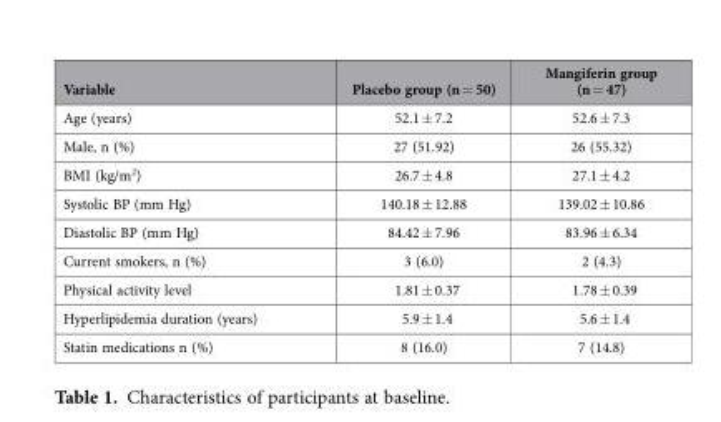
<table><thead><tr><td>Variable</td><td>Placebo group (n = 50)</td><td>Mangiferin group (n = 47)</td></tr></thead><tbody><tr><td>Age (years)</td><td>52.1 ± 7.2</td><td>52.6 ± 7.3</td></tr><tr><td>Male, n (%)</td><td>27 (51.92)</td><td>26 (55.32)</td></tr><tr><td>BMI (kg/m<sup>2</sup>)</td><td>26.7 ± 4.8</td><td>27.1 ± 4.2</td></tr><tr><td>Systolic BP (mm Hg)</td><td>140.18 ± 12.88</td><td>139.02 ± 10.86</td></tr><tr><td>Diastolic BP (mm Hg)</td><td>84.42 ± 7.96</td><td>83.96 ± 6.34</td></tr><tr><td>Current smokers, n (%)</td><td>3 (6.0)</td><td>2 (4.3)</td></tr><tr><td>Physical activity level</td><td>1.81 ± 0.37</td><td>1.78 ± 0.39</td></tr><tr><td>Hyperlipidemia duration (years)</td><td>5.9 ± 1.4</td><td>5.6 ± 1.4</td></tr><tr><td>Statin medications n (%)</td><td>8 (16.0)</td><td>7 (14.8)</td></tr></tbody></table>